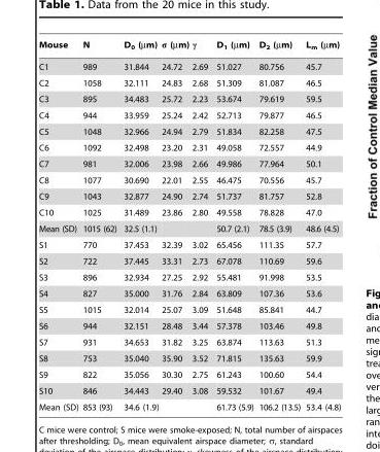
<table><thead><tr><td>Mouse</td><td>N</td><td>D<sub>0</sub> (µm)</td><td>σ (µm)</td><td>γ</td><td>D<sub>1</sub> (µm)</td><td>D<sub>2</sub> (µm)</td><td>L<sub>m</sub> (µm)</td></tr></thead><tbody><tr><td>C1</td><td>989</td><td>31.844</td><td>24.72</td><td>2.69</td><td>51.027</td><td>80.756</td><td>45.7</td></tr><tr><td>C2</td><td>1058</td><td>32.111</td><td>24.83</td><td>2.68</td><td>51.309</td><td>81.087</td><td>46.5</td></tr><tr><td>C3</td><td>895</td><td>34.483</td><td>25.72</td><td>2.23</td><td>53.674</td><td>79.619</td><td>59.5</td></tr><tr><td>C4</td><td>944</td><td>33.959</td><td>25.24</td><td>2.42</td><td>52.713</td><td>79.877</td><td>46.5</td></tr><tr><td>C5</td><td>1048</td><td>32.966</td><td>24.94</td><td>2.79</td><td>51.834</td><td>82.258</td><td>47.5</td></tr><tr><td>C6</td><td>1092</td><td>32.498</td><td>23.20</td><td>2.31</td><td>49.058</td><td>72.557</td><td>44.9</td></tr><tr><td>C7</td><td>981</td><td>32.006</td><td>23.98</td><td>2.66</td><td>49.986</td><td>77.964</td><td>50.1</td></tr><tr><td>C8</td><td>1077</td><td>30.690</td><td>22.01</td><td>2.55</td><td>46.475</td><td>70.556</td><td>45.7</td></tr><tr><td>C9</td><td>1043</td><td>32.877</td><td>24.90</td><td>2.74</td><td>51.737</td><td>81.757</td><td>52.8</td></tr><tr><td>C10</td><td>1025</td><td>31.489</td><td>23.86</td><td>2.80</td><td>49.558</td><td>78.828</td><td>47.0</td></tr><tr><td>Mean (SD)</td><td>1015 (62)</td><td>32.5 (1.1)</td><td></td><td></td><td>50.7 (2.1)</td><td>78.5 (3.9)</td><td>48.6 (4.5)</td></tr><tr><td>S1</td><td>770</td><td>37.453</td><td>32.39</td><td>3.02</td><td>65.456</td><td>111.35</td><td>57.7</td></tr><tr><td>S2</td><td>722</td><td>37.445</td><td>33.31</td><td>2.73</td><td>67.078</td><td>110.69</td><td>59.6</td></tr><tr><td>S3</td><td>896</td><td>32.934</td><td>27.25</td><td>2.92</td><td>55.481</td><td>91.998</td><td>53.5</td></tr><tr><td>S4</td><td>827</td><td>35.000</td><td>31.76</td><td>2.84</td><td>63.809</td><td>107.36</td><td>53.6</td></tr><tr><td>S5</td><td>1015</td><td>32.014</td><td>25.07</td><td>3.09</td><td>51.648</td><td>85.841</td><td>44.7</td></tr><tr><td>S6</td><td>944</td><td>32.151</td><td>28.48</td><td>3.44</td><td>57.378</td><td>103.46</td><td>49.8</td></tr><tr><td>S7</td><td>931</td><td>34.653</td><td>31.82</td><td>3.25</td><td>63.874</td><td>113.63</td><td>51.3</td></tr><tr><td>S8</td><td>753</td><td>35.040</td><td>35.90</td><td>3.52</td><td>71.815</td><td>135.63</td><td>59.9</td></tr><tr><td>S9</td><td>822</td><td>35.056</td><td>30.30</td><td>2.75</td><td>61.243</td><td>100.60</td><td>54.4</td></tr><tr><td>S10</td><td>846</td><td>34.443</td><td>29.40</td><td>3.08</td><td>59.532</td><td>101.67</td><td>49.4</td></tr><tr><td>Mean (SD)</td><td>853 (93)</td><td>34.6 (1.9)</td><td></td><td></td><td>61.73 (5.9)</td><td>106.2 (13.5)</td><td>53.4 (4.8)</td></tr></tbody></table>